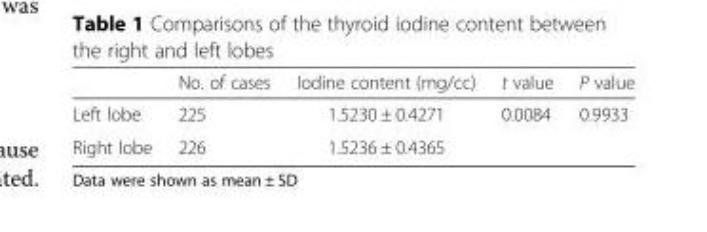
<table><thead><tr><td></td><td>No. of cases</td><td>Iodine content (mg/cc)</td><td>t value</td><td>P value</td></tr></thead><tbody><tr><td>Left lobe</td><td>225</td><td>1.5230 ± 0.4271</td><td rowspan="2">0.0084</td><td rowspan="2">0.9933</td></tr><tr><td>Right lobe</td><td>226</td><td>1.5236 ± 0.4365</td></tr></tbody></table>